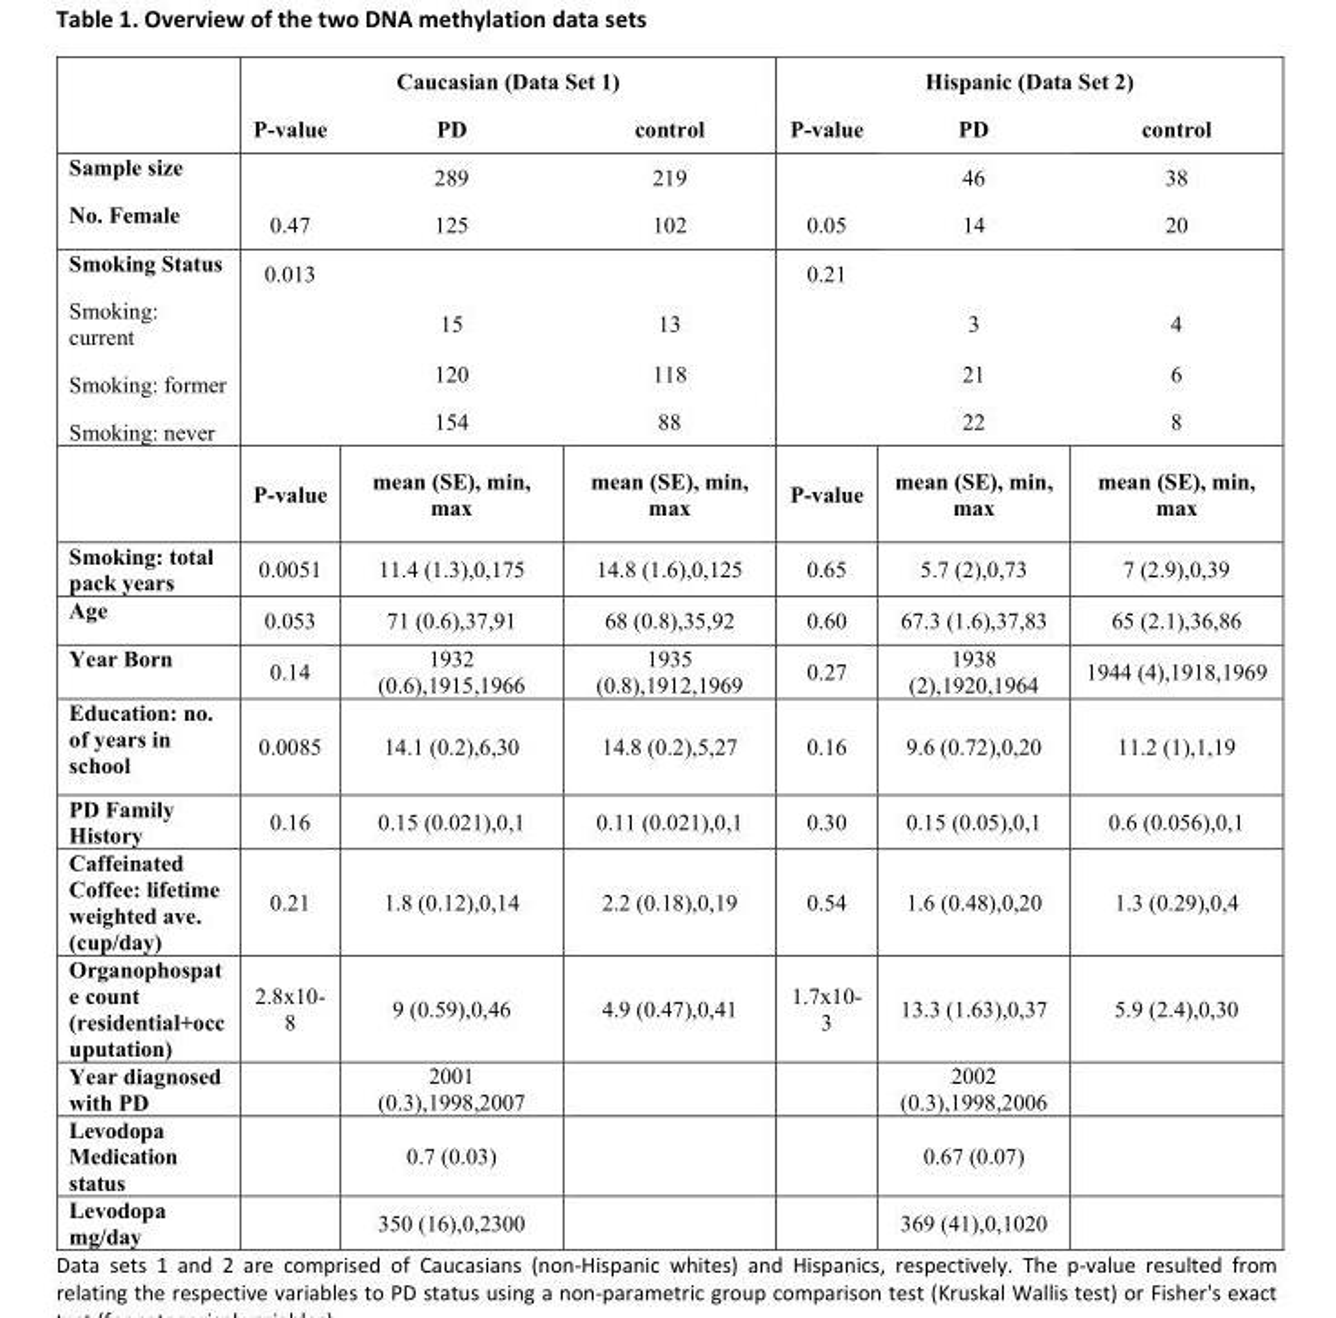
<table><thead><tr><td rowspan="2"></td><td colspan="3">Caucasian (Data Set 1)</td><td colspan="3">Hispanic (Data Set 2)</td></tr><tr><td>P-value</td><td>PD</td><td>control</td><td>P-value</td><td>PD</td><td>control</td></tr></thead><tbody><tr><td>Sample size</td><td></td><td>289</td><td>219</td><td></td><td>46</td><td>38</td></tr><tr><td>No. Female</td><td>0.47</td><td>125</td><td>102</td><td>0.05</td><td>14</td><td>20</td></tr><tr><td>Smoking Status</td><td>0.013</td><td></td><td></td><td>0.21</td><td></td><td></td></tr><tr><td>Smoking: current</td><td></td><td>15</td><td>13</td><td></td><td>3</td><td>4</td></tr><tr><td>Smoking: former</td><td></td><td>120</td><td>118</td><td></td><td>21</td><td>6</td></tr><tr><td rowspan="2">Smoking: never</td><td></td><td>154</td><td>88</td><td></td><td>22</td><td>8</td></tr><tr><td>P-value</td><td>mean (SE), min, max</td><td>mean (SE), min, max</td><td>P-value</td><td>mean (SE), min, max</td><td>mean (SE), min, max</td></tr><tr><td>Smoking: total pack years</td><td>0.0051</td><td>11.4 (1.3),0,175</td><td>14.8 (1.6),0,125</td><td>0.65</td><td>5.7 (2),0,73</td><td>7 (2.9),0,39</td></tr><tr><td>Age</td><td>0.053</td><td>71 (0.6),37,91</td><td>68 (0.8),35,92</td><td>0.60</td><td>67.3 (1.6),37,83</td><td>65 (2.1),36,86</td></tr><tr><td>Year Born</td><td>0.14</td><td>1932 (0.6),1915,1966</td><td>1935 (0.8),1912,1969</td><td>0.27</td><td>1938 (2),1920,1964</td><td>1944 (4),1918,1969</td></tr><tr><td>Education: no. of years in school</td><td>0.0085</td><td>14.1 (0.2),6,30</td><td>14.8 (0.2),5,27</td><td>0.16</td><td>9.6 (0.72),0,20</td><td>11.2 (1),1,19</td></tr><tr><td>PD Family History</td><td>0.16</td><td>0.15 (0.021),0,1</td><td>0.11 (0.021),0,1</td><td>0.30</td><td>0.15 (0.05),0,1</td><td>0.6 (0.056),0,1</td></tr><tr><td>Caffeinated Coffee: lifetime weighted ave. (cup/day)</td><td>0.21</td><td>1.8 (0.12),0,14</td><td>2.2 (0.18),0,19</td><td>0.54</td><td>1.6 (0.48),0,20</td><td>1.3 (0.29),0,4</td></tr><tr><td>Organophospat e count (residential+occ uputation)</td><td>2.8x10- 8</td><td>9 (0.59),0,46</td><td>4.9 (0.47),0,41</td><td>1.7x10- 3</td><td>13.3 (1.63),0,37</td><td>5.9 (2.4),0,30</td></tr><tr><td>Year diagnosed with PD</td><td></td><td>2001 (0.3),1998,2007</td><td></td><td></td><td>2002 (0.3),1998,2006</td><td></td></tr><tr><td>Levodopa Medication status</td><td></td><td>0.7 (0.03)</td><td></td><td></td><td>0.67 (0.07)</td><td></td></tr><tr><td>Levodopa mg/day</td><td></td><td>350 (16),0,2300</td><td></td><td></td><td>369 (41),0,1020</td><td></td></tr></tbody></table>